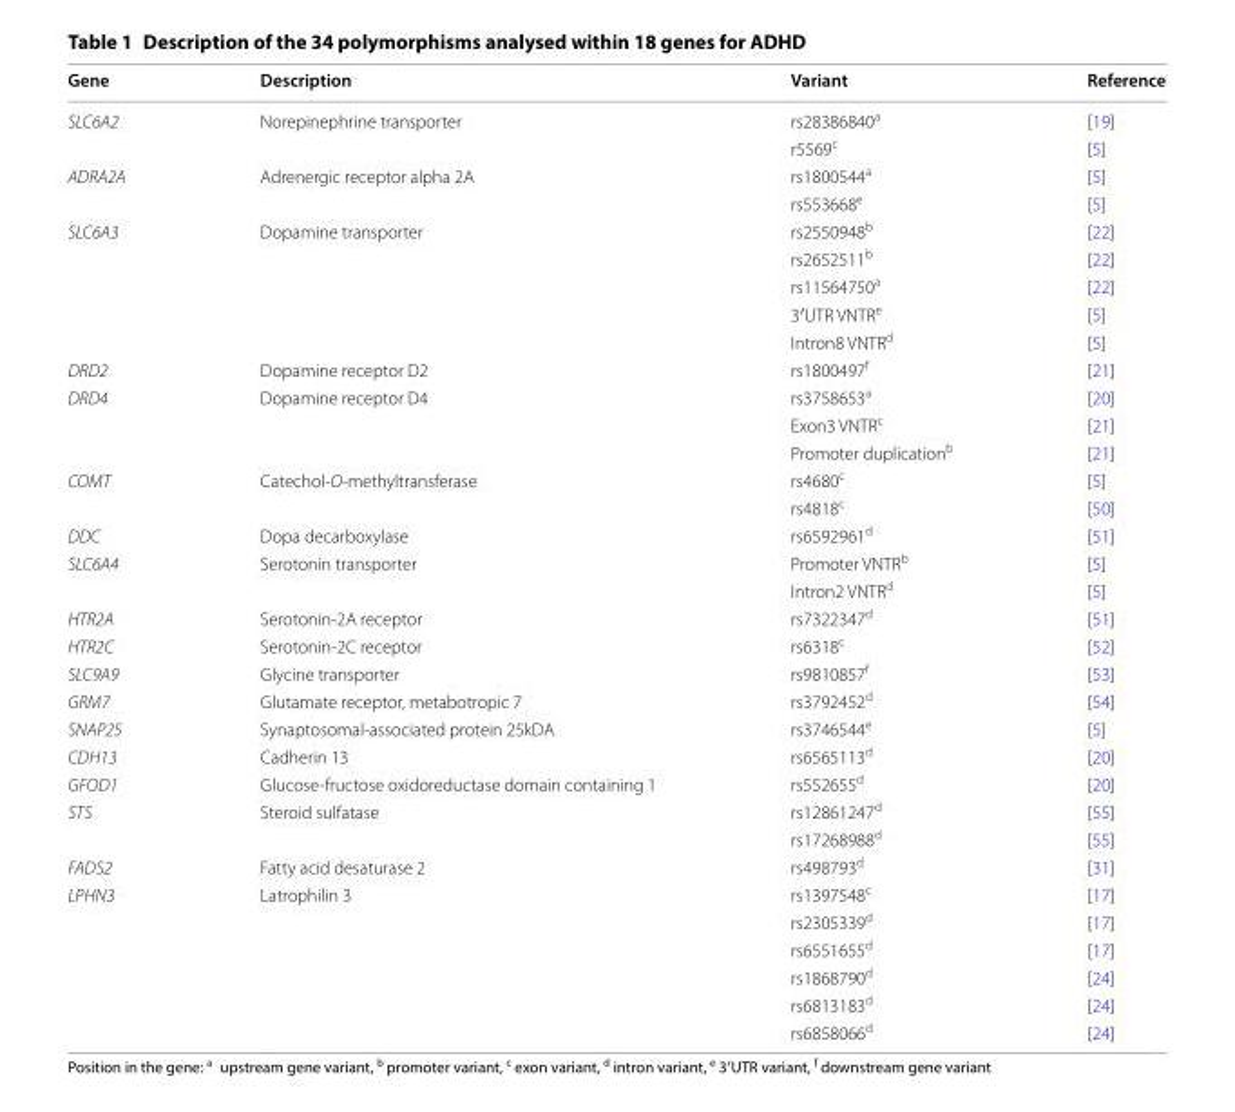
<table><thead><tr><td>Gene</td><td>Description</td><td>Variant</td><td>Reference</td></tr></thead><tbody><tr><td rowspan="2">SLC6A2</td><td rowspan="2">Norepinephrine transporter</td><td>rs28386840<sup>a</sup></td><td>[19]</td></tr><tr><td>r5569<sup>c</sup></td><td>[5]</td></tr><tr><td rowspan="2">ADRA2A</td><td rowspan="2">Adrenergic receptor alpha 2A</td><td>rs1800544<sup>a</sup></td><td>[5]</td></tr><tr><td>rs553668<sup>e</sup></td><td>[5]</td></tr><tr><td rowspan="5">SLC6A3</td><td rowspan="5">Dopamine transporter</td><td>rs2550948<sup>b</sup></td><td>[22]</td></tr><tr><td>rs2652511<sup>b</sup></td><td>[22]</td></tr><tr><td>rs11564750<sup>a</sup></td><td>[22]</td></tr><tr><td>3′UTR VNTR<sup>e</sup></td><td>[5]</td></tr><tr><td>Intron8 VNTR<sup>d</sup></td><td>[5]</td></tr><tr><td>DRD2</td><td>Dopamine receptor D2</td><td>rs1800497<sup>f</sup></td><td>[21]</td></tr><tr><td rowspan="3">DRD4</td><td rowspan="3">Dopamine receptor D4</td><td>rs3758653<sup>a</sup></td><td>[20]</td></tr><tr><td>Exon3 VNTR<sup>c</sup></td><td>[21]</td></tr><tr><td>Promoter duplication<sup>b</sup></td><td>[21]</td></tr><tr><td rowspan="2">COMT</td><td rowspan="2">Catechol‑O‑methyltransferase</td><td>rs4680<sup>c</sup></td><td>[5]</td></tr><tr><td>rs4818<sup>c</sup></td><td>[50]</td></tr><tr><td>DDC</td><td>Dopa decarboxylase</td><td>rs6592961<sup>d</sup></td><td>[51]</td></tr><tr><td rowspan="2">SLC6A4</td><td rowspan="2">Serotonin transporter</td><td>Promoter VNTR<sup>b</sup></td><td>[5]</td></tr><tr><td>Intron2 VNTR<sup>d</sup></td><td>[5]</td></tr><tr><td>HTR2A</td><td>Serotonin‑2A receptor</td><td>rs7322347<sup>d</sup></td><td>[51]</td></tr><tr><td>HTR2C</td><td>Serotonin‑2C receptor</td><td>rs6318<sup>c</sup></td><td>[52]</td></tr><tr><td>SLC9A9</td><td>Glycine transporter</td><td>rs9810857<sup>f</sup></td><td>[53]</td></tr><tr><td>GRM7</td><td>Glutamate receptor, metabotropic 7</td><td>rs3792452<sup>d</sup></td><td>[54]</td></tr><tr><td>SNAP25</td><td>Synaptosomal‑associated protein 25kDA</td><td>rs3746544<sup>e</sup></td><td>[5]</td></tr><tr><td>CDH13</td><td>Cadherin 13</td><td>rs6565113<sup>d</sup></td><td>[20]</td></tr><tr><td>GFOD1</td><td>Glucose‑fructose oxidoreductase domain containing 1</td><td>rs552655<sup>d</sup></td><td>[20]</td></tr><tr><td rowspan="2">STS</td><td rowspan="2">Steroid sulfatase</td><td>rs12861247<sup>d</sup></td><td>[55]</td></tr><tr><td>rs17268988<sup>d</sup></td><td>[55]</td></tr><tr><td>FADS2</td><td>Fatty acid desaturase 2</td><td>rs498793<sup>d</sup></td><td>[31]</td></tr><tr><td rowspan="6">LPHN3</td><td rowspan="6">Latrophilin 3</td><td>rs1397548<sup>c</sup></td><td>[17]</td></tr><tr><td>rs2305339<sup>d</sup></td><td>[17]</td></tr><tr><td>rs6551655<sup>d</sup></td><td>[17]</td></tr><tr><td>rs1868790<sup>d</sup></td><td>[24]</td></tr><tr><td>rs6813183<sup>d</sup></td><td>[24]</td></tr><tr><td>rs6858066<sup>d</sup></td><td>[24]</td></tr></tbody></table>